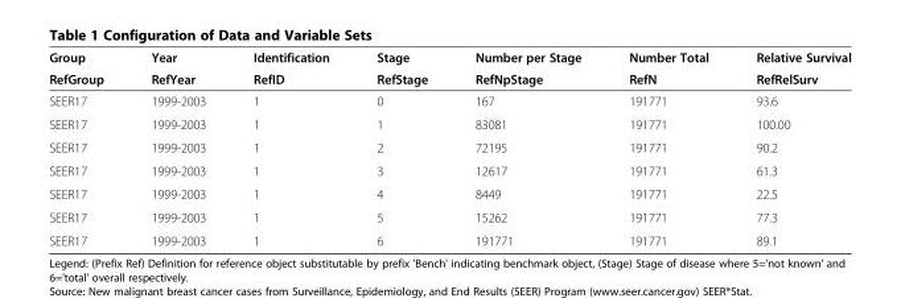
<table><thead><tr><td rowspan="2">Group RefGroup</td><td rowspan="2">Year RefYear</td><td rowspan="2">Identification RefID</td><td rowspan="2">Stage RefStage</td><td rowspan="2">Number per Stage RefNpStage</td><td rowspan="2">Number Total RefN</td><td rowspan="2">Relative Survival RefRelSurv</td></tr><tr></tr></thead><tbody><tr><td>SEER17</td><td>1999-2003</td><td>1</td><td>0</td><td>167</td><td>191771</td><td>93.6</td></tr><tr><td>SEER17</td><td>1999-2003</td><td>1</td><td>1</td><td>83081</td><td>191771</td><td>100.00</td></tr><tr><td>SEER17</td><td>1999-2003</td><td>1</td><td>2</td><td>72195</td><td>191771</td><td>90.2</td></tr><tr><td>SEER17</td><td>1999-2003</td><td>1</td><td>3</td><td>12617</td><td>191771</td><td>61.3</td></tr><tr><td>SEER17</td><td>1999-2003</td><td>1</td><td>4</td><td>8449</td><td>191771</td><td>22.5</td></tr><tr><td>SEER17</td><td>1999-2003</td><td>1</td><td>5</td><td>15262</td><td>191771</td><td>77.3</td></tr><tr><td>SEER17</td><td>1999-2003</td><td>1</td><td>6</td><td>191771</td><td>191771</td><td>89.1</td></tr></tbody></table>